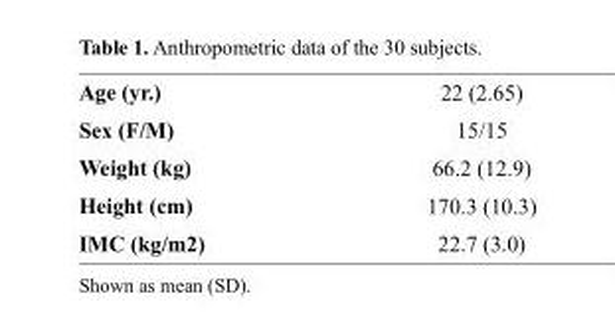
<table><tbody><tr><td>Age (yr.)</td><td>22 (2.65)</td></tr><tr><td>Sex (F/M)</td><td>15/15</td></tr><tr><td>Weight (kg)</td><td>66.2 (12.9)</td></tr><tr><td>Height (cm)</td><td>170.3 (10.3)</td></tr><tr><td>IMC (kg/m2)</td><td>22.7 (3.0)</td></tr></tbody></table>